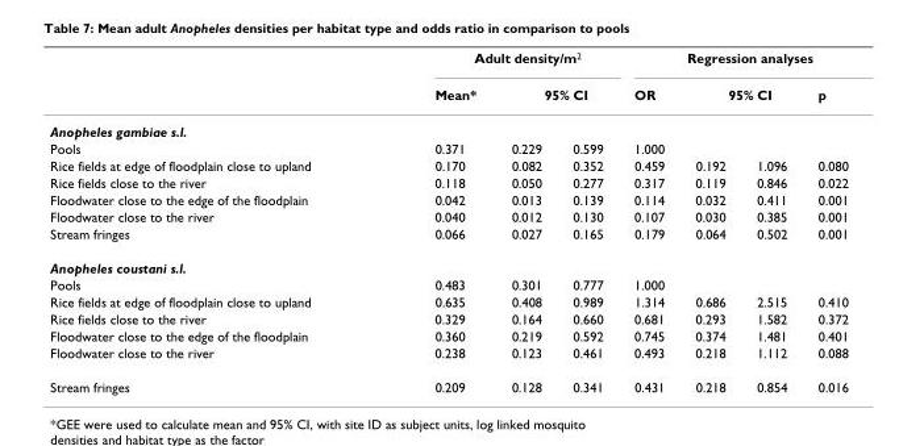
<table><thead><tr><td rowspan="3">Anopheles gambiae s.l.</td><td colspan="3">Adult density/m<sup>2</sup></td><td colspan="4">Regression analyses</td></tr><tr><td rowspan="2">Mean*</td><td colspan="2">95% CI</td><td rowspan="2">OR</td><td colspan="2">95% CI</td><td rowspan="2">p</td></tr><tr><td></td><td></td><td></td><td></td></tr></thead><tbody><tr><td>Pools</td><td>0.371</td><td>0.229</td><td>0.599</td><td>1.000</td><td></td><td></td><td></td></tr><tr><td>Rice fields at edge of floodplain close to upland</td><td>0.170</td><td>0.082</td><td>0.352</td><td>0.459</td><td>0.192</td><td>1.096</td><td>0.080</td></tr><tr><td>Rice fields close to the river</td><td>0.118</td><td>0.050</td><td>0.277</td><td>0.317</td><td>0.119</td><td>0.846</td><td>0.022</td></tr><tr><td>Floodwater close to the edge of the floodplain</td><td>0.042</td><td>0.013</td><td>0.139</td><td>0.114</td><td>0.032</td><td>0.411</td><td>0.001</td></tr><tr><td>Floodwater close to the river</td><td>0.040</td><td>0.012</td><td>0.130</td><td>0.107</td><td>0.030</td><td>0.385</td><td>0.001</td></tr><tr><td>Stream fringes</td><td>0.066</td><td>0.027</td><td>0.165</td><td>0.179</td><td>0.064</td><td>0.502</td><td>0.001</td></tr><tr><td colspan="8">Anopheles coustani s.l.</td></tr><tr><td>Pools</td><td>0.483</td><td>0.301</td><td>0.777</td><td>1.000</td><td></td><td></td><td></td></tr><tr><td>Rice fields at edge of floodplain close to upland</td><td>0.635</td><td>0.408</td><td>0.989</td><td>1.314</td><td>0.686</td><td>2.515</td><td>0.410</td></tr><tr><td>Rice fields close to the river</td><td>0.329</td><td>0.164</td><td>0.660</td><td>0.681</td><td>0.293</td><td>1.582</td><td>0.372</td></tr><tr><td>Floodwater close to the edge of the floodplain</td><td>0.360</td><td>0.219</td><td>0.592</td><td>0.745</td><td>0.374</td><td>1.481</td><td>0.401</td></tr><tr><td>Floodwater close to the river</td><td>0.238</td><td>0.123</td><td>0.461</td><td>0.493</td><td>0.218</td><td>1.112</td><td>0.088</td></tr><tr><td>Stream fringes</td><td>0.209</td><td>0.128</td><td>0.341</td><td>0.431</td><td>0.218</td><td>0.854</td><td>0.016</td></tr></tbody></table>